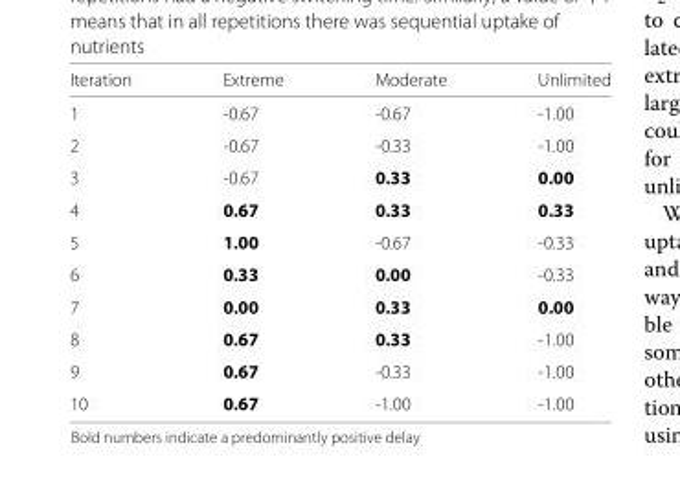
<table><thead><tr><td>Iteration</td><td>Extreme</td><td>Moderate</td><td>Unlimited</td></tr></thead><tbody><tr><td>1</td><td>-0.67</td><td>-0.67</td><td>-1.00</td></tr><tr><td>2</td><td>-0.67</td><td>-0.33</td><td>-1.00</td></tr><tr><td>3</td><td>-0.67</td><td>0.33</td><td>0.00</td></tr><tr><td>4</td><td>0.67</td><td>0.33</td><td>0.33</td></tr><tr><td>5</td><td>1.00</td><td>-0.67</td><td>-0.33</td></tr><tr><td>6</td><td>0.33</td><td>0.00</td><td>-0.33</td></tr><tr><td>7</td><td>0.00</td><td>0.33</td><td>0.00</td></tr><tr><td>8</td><td>0.67</td><td>0.33</td><td>-1.00</td></tr><tr><td>9</td><td>0.67</td><td>-0.33</td><td>-1.00</td></tr><tr><td>10</td><td>0.67</td><td>-1.00</td><td>-1.00</td></tr></tbody></table>